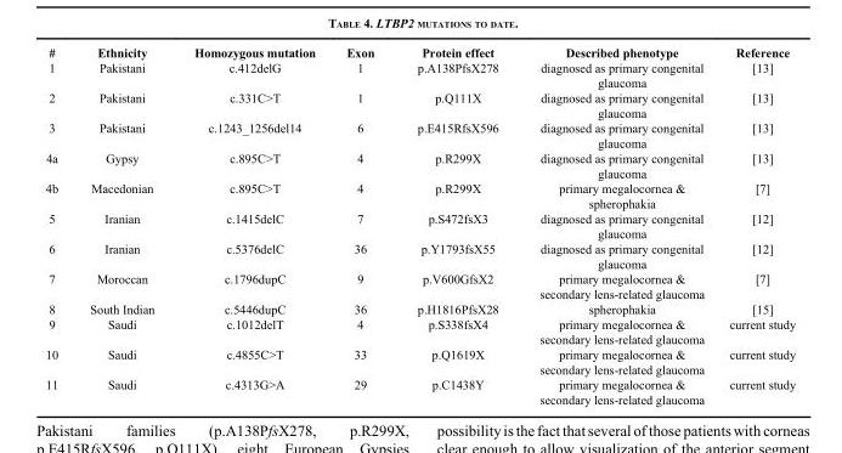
<table><thead><tr><td>#</td><td>Ethnicity</td><td>Homozygous mutation</td><td>Exon</td><td>Protein effect</td><td>Described phenotype</td><td>Reference</td></tr></thead><tbody><tr><td>1</td><td>Pakistani</td><td>c.412delG</td><td>1</td><td>p.A138PfsX278</td><td>diagnosed as primary congenital glaucoma</td><td>[13]</td></tr><tr><td>2</td><td>Pakistani</td><td>c.331C&gt;T</td><td>1</td><td>p.Q111X</td><td>diagnosed as primary congenital glaucoma</td><td>[13]</td></tr><tr><td>3</td><td>Pakistani</td><td>c.1243_1256del14</td><td>6</td><td>p.E415RfsX596</td><td>diagnosed as primary congenital glaucoma</td><td>[13]</td></tr><tr><td>4a</td><td>Gypsy</td><td>c.895C&gt;T</td><td>4</td><td>p.R299X</td><td>diagnosed as primary congenital glaucoma</td><td>[13]</td></tr><tr><td>4b</td><td>Macedonian</td><td>c.895C&gt;T</td><td>4</td><td>p.R299X</td><td>primary megalocornea &amp; spherophakia</td><td>[7]</td></tr><tr><td>5</td><td>Iranian</td><td>c.1415delC</td><td>7</td><td>p.S472fsX3</td><td>diagnosed as primary congenital glaucoma</td><td>[12]</td></tr><tr><td>6</td><td>Iranian</td><td>c.5376delC</td><td>36</td><td>p.Y1793fsX55</td><td>diagnosed as primary congenital glaucoma</td><td>[12]</td></tr><tr><td>7</td><td>Moroccan</td><td>c.1796dupC</td><td>9</td><td>p.V600GfsX2</td><td>primary megalocornea &amp; secondary lens-related glaucoma</td><td>[7]</td></tr><tr><td>8</td><td>South Indian</td><td>c.5446dupC</td><td>36</td><td>p.H1816PfsX28</td><td>spherophakia</td><td>[15]</td></tr><tr><td>9</td><td>Saudi</td><td>c.1012delT</td><td>4</td><td>p.S338fsX4</td><td>primary megalocornea &amp; secondary lens-related glaucoma</td><td>current study</td></tr><tr><td>10</td><td>Saudi</td><td>c.4855C&gt;T</td><td>33</td><td>p.Q1619X</td><td>primary megalocornea &amp; secondary lens-related glaucoma</td><td>current study</td></tr><tr><td>11</td><td>Saudi</td><td>c.4313G&gt;A</td><td>29</td><td>p.C1438Y</td><td>primary megalocornea &amp; secondary lens-related glaucoma</td><td>current study</td></tr></tbody></table>